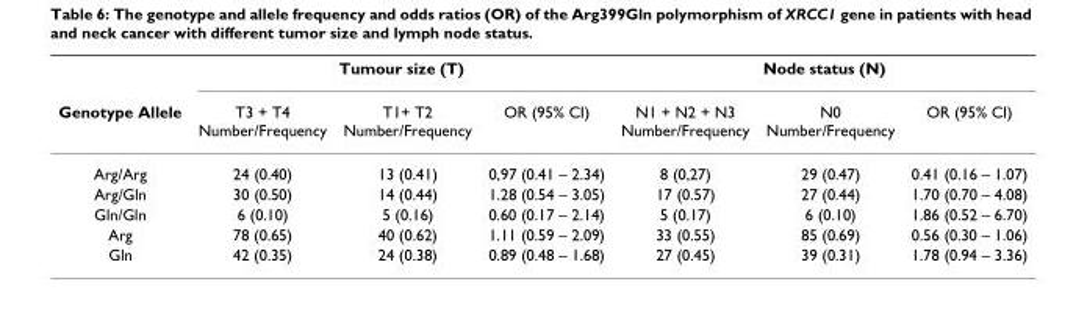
<table><thead><tr><td rowspan="2">Genotype Allele</td><td colspan="3">Tumour size (T)</td><td colspan="3">Node status (N)</td></tr><tr><td>T3 + T4 Number/Frequency</td><td>T1+ T2 Number/Frequency</td><td>OR (95% CI)</td><td>N1 + N2 + N3 Number/Frequency</td><td>N0 Number/Frequency</td><td>OR (95% CI)</td></tr></thead><tbody><tr><td>Arg/Arg</td><td>24 (0.40)</td><td>13 (0.41)</td><td>0,97 (0.41 – 2.34)</td><td>8 (0,27)</td><td>29 (0.47)</td><td>0.41 (0.16 – 1.07)</td></tr><tr><td>Arg/Gln</td><td>30 (0.50)</td><td>14 (0.44)</td><td>1.28 (0.54 – 3.05)</td><td>17 (0.57)</td><td>27 (0.44)</td><td>1.70 (0.70 – 4.08)</td></tr><tr><td>Gln/Gln</td><td>6 (0.10)</td><td>5 (0.16)</td><td>0.60 (0.17 – 2.14)</td><td>5 (0.17)</td><td>6 (0.10)</td><td>1.86 (0.52 – 6.70)</td></tr><tr><td>Arg</td><td>78 (0.65)</td><td>40 (0.62)</td><td>1.11 (0.59 – 2.09)</td><td>33 (0.55)</td><td>85 (0.69)</td><td>0.56 (0.30 – 1.06)</td></tr><tr><td>Gln</td><td>42 (0.35)</td><td>24 (0.38)</td><td>0.89 (0.48 – 1.68)</td><td>27 (0.45)</td><td>39 (0.31)</td><td>1.78 (0.94 – 3.36)</td></tr></tbody></table>